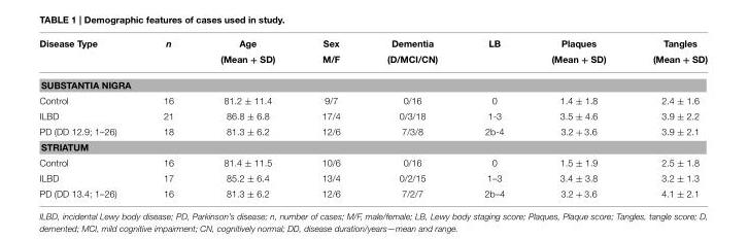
<table><thead><tr><td>Disease Type</td><td>n</td><td>Age (Mean + SD)</td><td>Sex M/F</td><td>Dementia (D/MCI/CN)</td><td>LB</td><td>Plaques (Mean + SD)</td><td>Tangles (Mean + SD)</td></tr></thead><tbody><tr><td colspan="8">SUBSTANTIA NIGRA</td></tr><tr><td>Control</td><td>16</td><td>81.2 ± 11.4</td><td>9/7</td><td>0/16</td><td>0</td><td>1.4 ± 1.8</td><td>2.4 ± 1.6</td></tr><tr><td>ILBD</td><td>21</td><td>86.8 ± 6.8</td><td>17/4</td><td>0/3/18</td><td>1-3</td><td>3.5 ± 4.6</td><td>3.9 ± 2.2</td></tr><tr><td>PD (DD 12.9; 1–26)</td><td>18</td><td>81.3 ± 6.2</td><td>12/6</td><td>7/3/8</td><td>2b-4</td><td>3.2 + 3.6</td><td>3.9 ± 2.1</td></tr><tr><td colspan="8">STRIATUM</td></tr><tr><td>Control</td><td>16</td><td>81.4 ± 11.5</td><td>10/6</td><td>0/16</td><td>0</td><td>1.5 ± 1.9</td><td>2.5 ± 1.8</td></tr><tr><td>ILBD</td><td>17</td><td>85.2 ± 6.4</td><td>13/4</td><td>0/2/15</td><td>1–3</td><td>3.4 ± 3.8</td><td>3.2 ± 1.3</td></tr><tr><td>PD (DD 13.4; 1–26)</td><td>16</td><td>81.3 ± 6.2</td><td>12/6</td><td>7/2/7</td><td>2b–4</td><td>3.2 + 3.6</td><td>4.1 ± 2.1</td></tr></tbody></table>